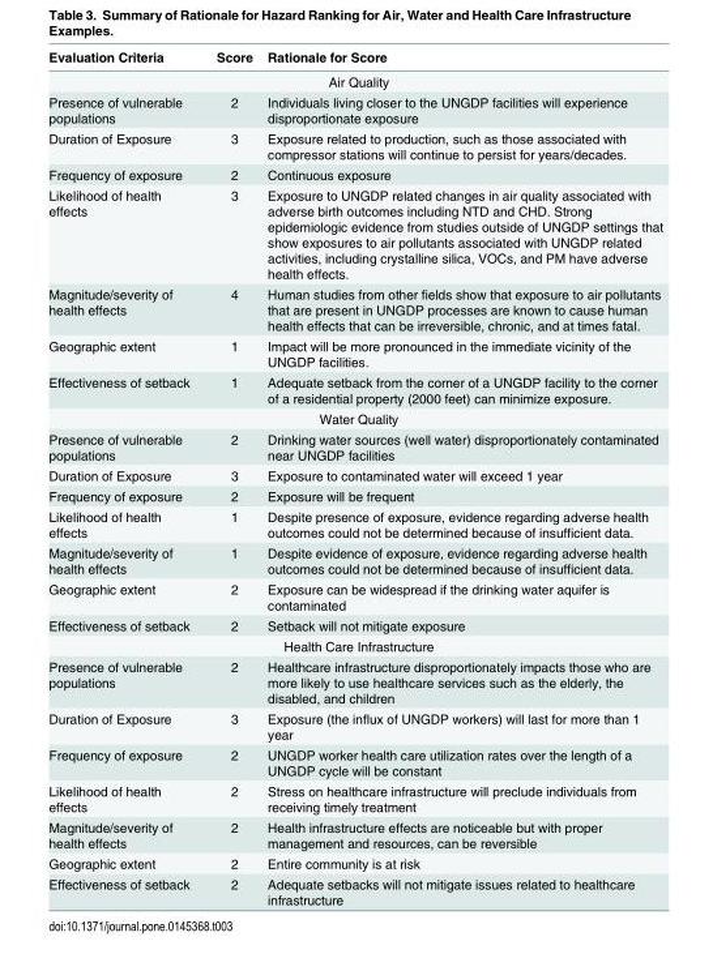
<table><thead><tr><td>Evaluation Criteria</td><td>Score</td><td>Rationale for Score</td></tr></thead><tbody><tr><td colspan="3">Air Quality</td></tr><tr><td>Presence of vulnerable populations</td><td>2</td><td>Individuals living closer to the UNGDP facilities will experience disproportionate exposure</td></tr><tr><td>Duration of Exposure</td><td>3</td><td>Exposure related to production, such as those associated with compressor stations will continue to persist for years/decades.</td></tr><tr><td>Frequency of exposure</td><td>2</td><td>Continuous exposure</td></tr><tr><td>Likelihood of health effects</td><td>3</td><td>Exposure to UNGDP related changes in air quality associated with adverse birth outcomes including NTD and CHD. Strong epidemiologic evidence from studies outside of UNGDP settings that show exposures to air pollutants associated with UNGDP related activities, including crystalline silica, VOCs, and PM have adverse health effects.</td></tr><tr><td>Magnitude/severity of health effects</td><td>4</td><td>Human studies from other fields show that exposure to air pollutants that are present in UNGDP processes are known to cause human health effects that can be irreversible, chronic, and at times fatal.</td></tr><tr><td>Geographic extent</td><td>1</td><td>Impact will be more pronounced in the immediate vicinity of the UNGDP facilities.</td></tr><tr><td>Effectiveness of setback</td><td>1</td><td>Adequate setback from the corner of a UNGDP facility to the corner of a residential property (2000 feet) can minimize exposure.</td></tr><tr><td colspan="3">Water Quality</td></tr><tr><td>Presence of vulnerable populations</td><td>2</td><td>Drinking water sources (well water) disproportionately contaminated near UNGDP facilities</td></tr><tr><td>Duration of Exposure</td><td>3</td><td>Exposure to contaminated water will exceed 1 year</td></tr><tr><td>Frequency of exposure</td><td>2</td><td>Exposure will be frequent</td></tr><tr><td>Likelihood of health effects</td><td>1</td><td>Despite presence of exposure, evidence regarding adverse health outcomes could not be determined because of insufficient data.</td></tr><tr><td>Magnitude/severity of health effects</td><td>1</td><td>Despite evidence of exposure, evidence regarding adverse health outcomes could not be determined because of insufficient data.</td></tr><tr><td>Geographic extent</td><td>2</td><td>Exposure can be widespread if the drinking water aquifer is contaminated</td></tr><tr><td>Effectiveness of setback</td><td>2</td><td>Setback will not mitigate exposure</td></tr><tr><td colspan="3">Health Care Infrastructure</td></tr><tr><td>Presence of vulnerable populations</td><td>2</td><td>Healthcare infrastructure disproportionately impacts those who are more likely to use healthcare services such as the elderly, the disabled, and children</td></tr><tr><td>Duration of Exposure</td><td>3</td><td>Exposure (the influx of UNGDP workers) will last for more than 1 year</td></tr><tr><td>Frequency of exposure</td><td>2</td><td>UNGDP worker health care utilization rates over the length of a UNGDP cycle will be constant</td></tr><tr><td>Likelihood of health effects</td><td>2</td><td>Stress on healthcare infrastructure will preclude individuals from receiving timely treatment</td></tr><tr><td>Magnitude/severity of health effects</td><td>2</td><td>Health infrastructure effects are noticeable but with proper management and resources, can be reversible</td></tr><tr><td>Geographic extent</td><td>2</td><td>Entire community is at risk</td></tr><tr><td>Effectiveness of setback</td><td>2</td><td>Adequate setbacks will not mitigate issues related to healthcare infrastructure</td></tr></tbody></table>